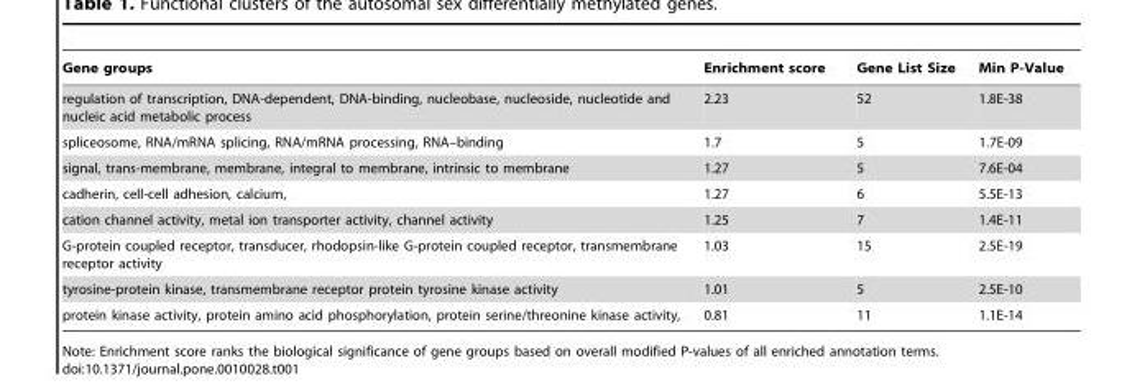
<table><thead><tr><td>Gene groups</td><td>Enrichment score</td><td>Gene List Size</td><td>Min P-Value</td></tr></thead><tbody><tr><td>regulation of transcription, DNA-dependent, DNA-binding, nucleobase, nucleoside, nucleotide and nucleic acid metabolic process</td><td>2.23</td><td>52</td><td>1.8E-38</td></tr><tr><td>spliceosome, RNA/mRNA splicing, RNA/mRNA processing, RNA–binding</td><td>1.7</td><td>5</td><td>1.7E-09</td></tr><tr><td>signal, trans-membrane, membrane, integral to membrane, intrinsic to membrane</td><td>1.27</td><td>5</td><td>7.6E-04</td></tr><tr><td>cadherin, cell-cell adhesion, calcium,</td><td>1.27</td><td>6</td><td>5.5E-13</td></tr><tr><td>cation channel activity, metal ion transporter activity, channel activity</td><td>1.25</td><td>7</td><td>1.4E-11</td></tr><tr><td>G-protein coupled receptor, transducer, rhodopsin-like G-protein coupled receptor, transmembrane receptor activity</td><td>1.03</td><td>15</td><td>2.5E-19</td></tr><tr><td>tyrosine-protein kinase, transmembrane receptor protein tyrosine kinase activity</td><td>1.01</td><td>5</td><td>2.5E-10</td></tr><tr><td>protein kinase activity, protein amino acid phosphorylation, protein serine/threonine kinase activity,</td><td>0.81</td><td>11</td><td>1.1E-14</td></tr></tbody></table>